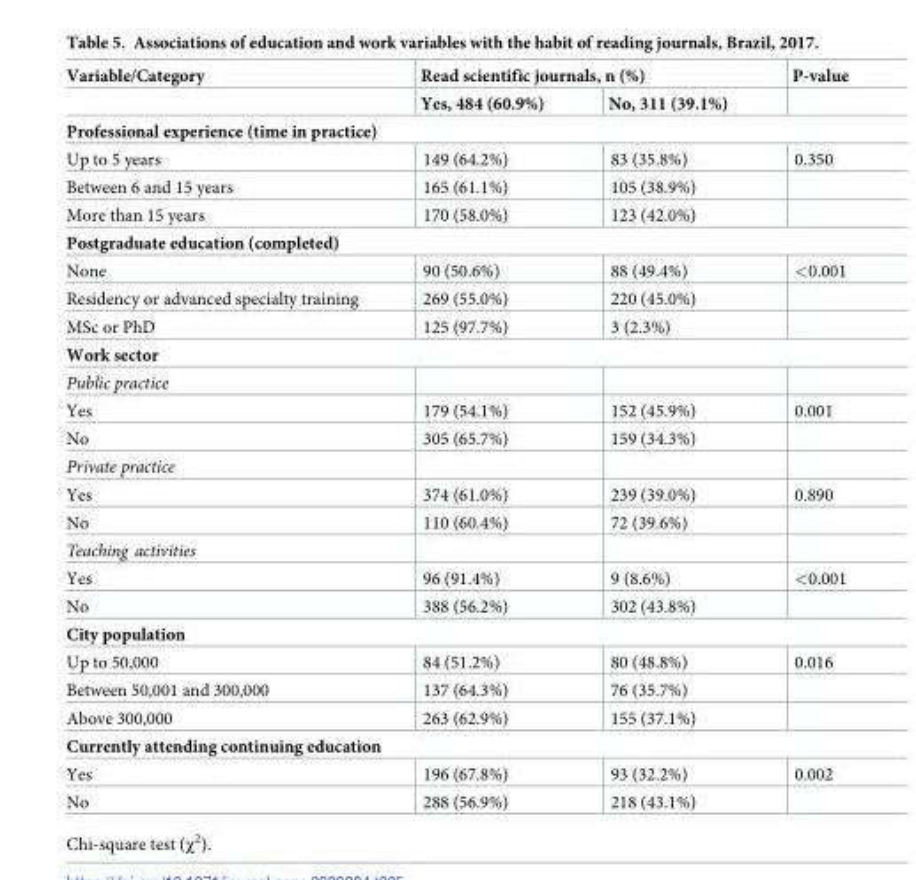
<table><thead><tr><td rowspan="2">Variable/Category</td><td colspan="2">Read scientific journals, n (%)</td><td rowspan="2">P-value</td></tr><tr><td>Yes, 484 (60.9%)</td><td>No, 311 (39.1%)</td></tr></thead><tbody><tr><td colspan="4">Professional experience (time in practice)</td></tr><tr><td>Up to 5 years</td><td>149 (64.2%)</td><td>83 (35.8%)</td><td>0.350</td></tr><tr><td>Between 6 and 15 years</td><td>165 (61.1%)</td><td>105 (38.9%)</td><td></td></tr><tr><td>More than 15 years</td><td>170 (58.0%)</td><td>123 (42.0%)</td><td></td></tr><tr><td colspan="4">Postgraduate education (completed)</td></tr><tr><td>None</td><td>90 (50.6%)</td><td>88 (49.4%)</td><td>&lt;0.001</td></tr><tr><td>Residency or advanced specialty training</td><td>269 (55.0%)</td><td>220 (45.0%)</td><td></td></tr><tr><td>MSc or PhD</td><td>125 (97.7%)</td><td>3 (2.3%)</td><td></td></tr><tr><td colspan="4">Work sector</td></tr><tr><td colspan="4">Public practice</td></tr><tr><td>Yes</td><td>179 (54.1%)</td><td>152 (45.9%)</td><td>0.001</td></tr><tr><td>No</td><td>305 (65.7%)</td><td>159 (34.3%)</td><td></td></tr><tr><td colspan="4">Private practice</td></tr><tr><td>Yes</td><td>374 (61.0%)</td><td>239 (39.0%)</td><td>0.890</td></tr><tr><td>No</td><td>110 (60.4%)</td><td>72 (39.6%)</td><td></td></tr><tr><td colspan="4">Teaching activities</td></tr><tr><td>Yes</td><td>96 (91.4%)</td><td>9 (8.6%)</td><td>&lt;0.001</td></tr><tr><td>No</td><td>388 (56.2%)</td><td>302 (43.8%)</td><td></td></tr><tr><td colspan="4">City population</td></tr><tr><td>Up to 50,000</td><td>84 (51.2%)</td><td>80 (48.8%)</td><td>0.016</td></tr><tr><td>Between 50,001 and 300,000</td><td>137 (64.3%)</td><td>76 (35.7%)</td><td></td></tr><tr><td>Above 300,000</td><td>263 (62.9%)</td><td>155 (37.1%)</td><td></td></tr><tr><td colspan="4">Currently attending continuing education</td></tr><tr><td>Yes</td><td>196 (67.8%)</td><td>93 (32.2%)</td><td>0.002</td></tr><tr><td>No</td><td>288 (56.9%)</td><td>218 (43.1%)</td><td></td></tr></tbody></table>